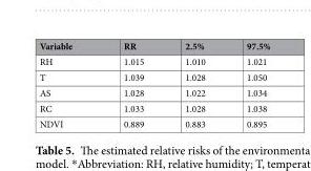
<table><thead><tr><td>Variable</td><td>RR</td><td>2.5%</td><td>97.5%</td></tr></thead><tbody><tr><td>RH</td><td>1.015</td><td>1.010</td><td>1.021</td></tr><tr><td>T</td><td>1.039</td><td>1.028</td><td>1.050</td></tr><tr><td>AS</td><td>1.028</td><td>1.022</td><td>1.034</td></tr><tr><td>RC</td><td>1.033</td><td>1.028</td><td>1.038</td></tr><tr><td>NDVI</td><td>0.889</td><td>0.883</td><td>0.895</td></tr></tbody></table>